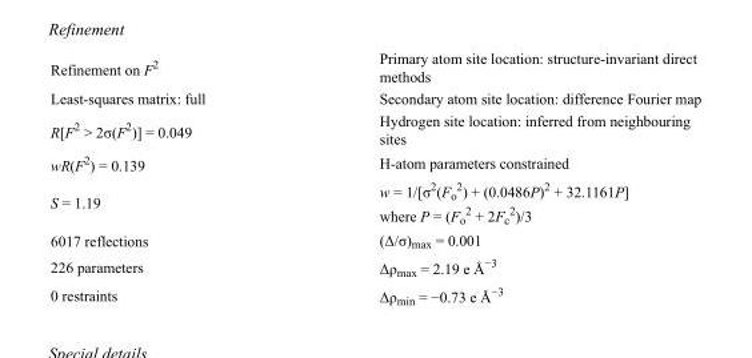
<table><tbody><tr><td>Refinement on F<sup>2</sup></td><td>Primary atom site location: structure-invariant direct methods</td></tr><tr><td>Least-squares matrix: full</td><td>Secondary atom site location: difference Fourier map</td></tr><tr><td>R[F<sup>2</sup> &gt; 2σ(F<sup>2</sup>)] = 0.049</td><td>Hydrogen site location: inferred from neighbouring sites</td></tr><tr><td>wR(F<sup>2</sup>) = 0.139</td><td>H-atom parameters constrained</td></tr><tr><td>S = 1.19</td><td>w = 1/[σ<sup>2</sup>(F<sub>o</sub> <sup>2</sup>) + (0.0486P)<sup>2</sup> + 32.1161P] where P = (F<sub>o</sub> <sup>2</sup> + 2F<sub>c</sub> <sup>2</sup>)/3</td></tr><tr><td>6017 reflections</td><td>(Δ/σ)<sub>max</sub> = 0.001</td></tr><tr><td>226 parameters</td><td>Δρ<sub>max</sub> = 2.19 e Å<sup>−3</sup></td></tr><tr><td>0 restraints</td><td>Δρ<sub>min</sub> = −0.73 e Å<sup>−3</sup></td></tr></tbody></table>